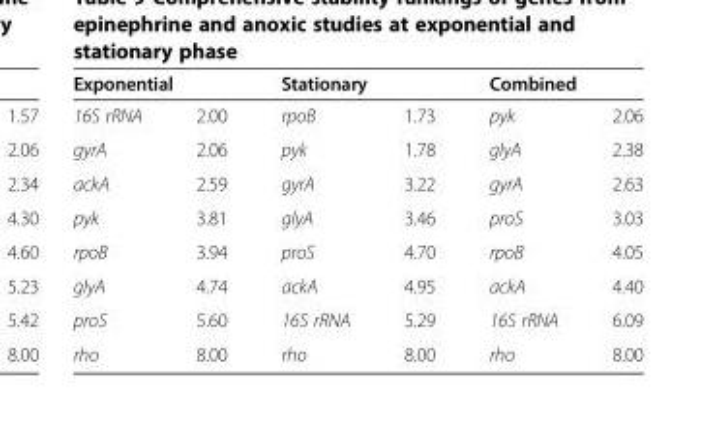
<table><thead><tr><td colspan="2">Exponential</td><td colspan="2">Stationary</td><td colspan="2">Combined</td></tr><tr><td>16S rRNA</td><td>2.00</td><td>rpoB</td><td>1.73</td><td>pyk</td><td>2.06</td></tr></thead><tbody><tr><td>gyrA</td><td>2.06</td><td>pyk</td><td>1.78</td><td>glyA</td><td>2.38</td></tr><tr><td>ackA</td><td>2.59</td><td>gyrA</td><td>3.22</td><td>gyrA</td><td>2.63</td></tr><tr><td>pyk</td><td>3.81</td><td>glyA</td><td>3.46</td><td>proS</td><td>3.03</td></tr><tr><td>rpoB</td><td>3.94</td><td>proS</td><td>4.70</td><td>rpoB</td><td>4.05</td></tr><tr><td>glyA</td><td>4.74</td><td>ackA</td><td>4.95</td><td>ackA</td><td>4.40</td></tr><tr><td>proS</td><td>5.60</td><td>16S rRNA</td><td>5.29</td><td>16S rRNA</td><td>6.09</td></tr><tr><td>rho</td><td>8.00</td><td>rho</td><td>8.00</td><td>rho</td><td>8.00</td></tr></tbody></table>